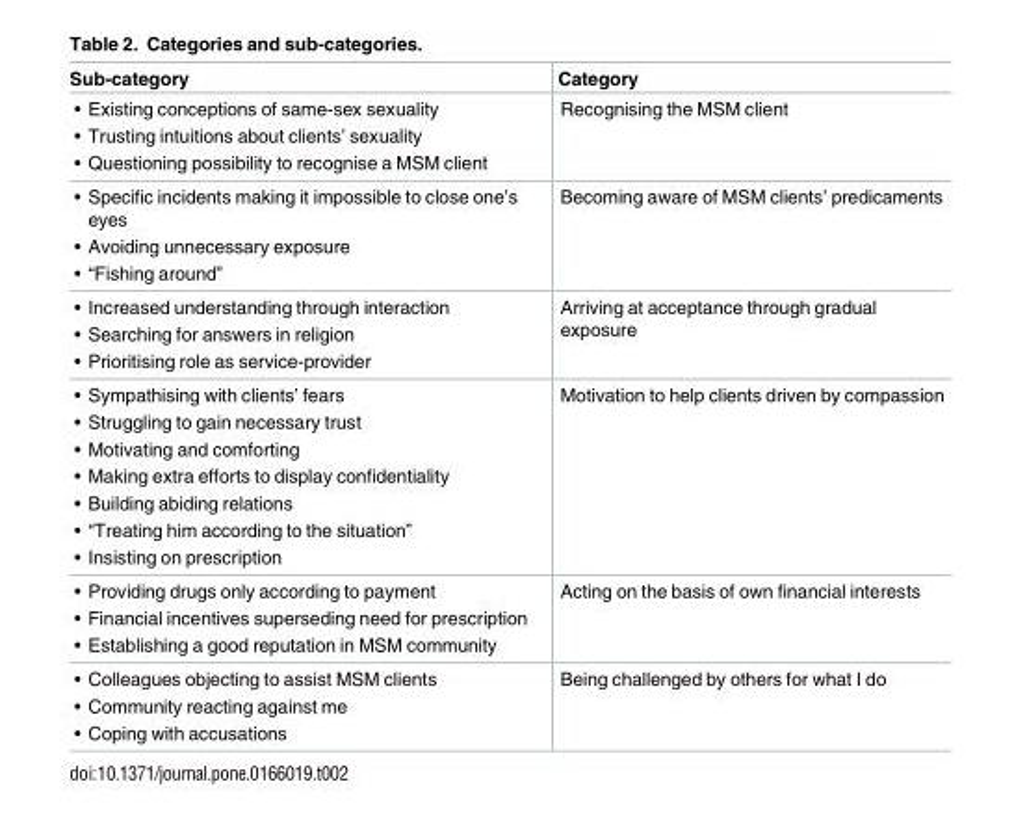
<table><thead><tr><td>Sub-category</td><td>Category</td></tr></thead><tbody><tr><td>• Existing conceptions of same-sex sexuality • Trusting intuitions about clients’ sexuality • Questioning possibility to recognise a MSM client</td><td>Recognising the MSM client</td></tr><tr><td>• Specific incidents making it impossible to close one’s eyes • Avoiding unnecessary exposure • “Fishing around”</td><td>Becoming aware of MSM clients’ predicaments</td></tr><tr><td>• Increased understanding through interaction • Searching for answers in religion • Prioritising role as service-provider</td><td>Arriving at acceptance through gradual exposure</td></tr><tr><td>• Sympathising with clients’ fears • Struggling to gain necessary trust • Motivating and comforting • Making extra efforts to display confidentiality • Building abiding relations • “Treating him according to the situation” • Insisting on prescription</td><td>Motivation to help clients driven by compassion</td></tr><tr><td>• Providing drugs only according to payment • Financial incentives superseding need for prescription • Establishing a good reputation in MSM community</td><td>Acting on the basis of own financial interests</td></tr><tr><td>• Colleagues objecting to assist MSM clients • Community reacting against me • Coping with accusations</td><td>Being challenged by others for what I do</td></tr></tbody></table>